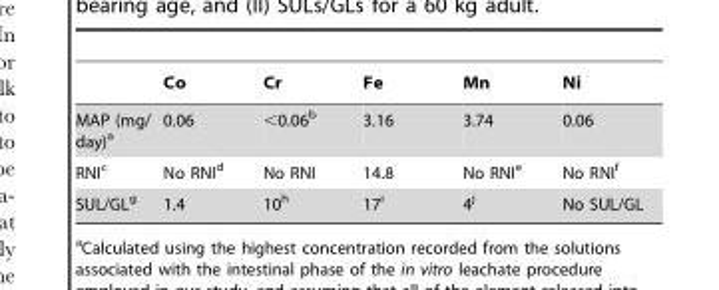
<table><thead><tr><td></td><td>Co</td><td>Cr</td><td>Fe</td><td>Mn</td><td>Ni</td></tr></thead><tbody><tr><td>MAP (mg/ day)<sup>a</sup></td><td>0.06</td><td>&lt;0.06<sup>b</sup></td><td>3.16</td><td>3.74</td><td>0.06</td></tr><tr><td>RNI<sup>c</sup></td><td>No RNI<sup>d</sup></td><td>No RNI</td><td>14.8</td><td>No RNI<sup>e</sup></td><td>No RNI<sup>f</sup></td></tr><tr><td>SUL/GL<sup>g</sup></td><td>1.4</td><td>10<sup>h</sup></td><td>17<sup>i</sup></td><td>4<sup>j</sup></td><td>No SUL/GL</td></tr></tbody></table>